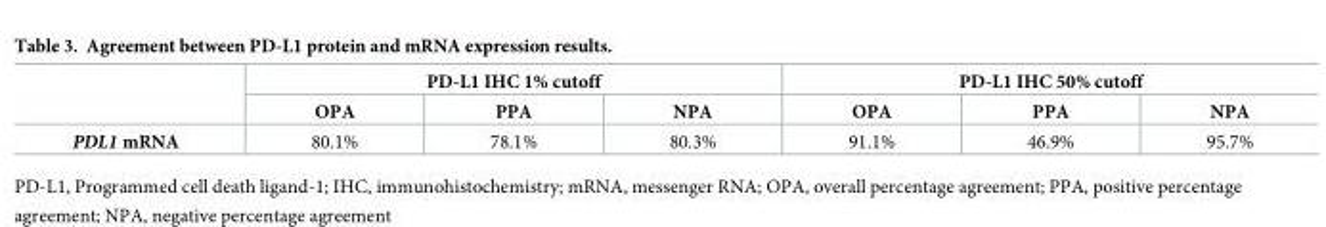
<table><thead><tr><td rowspan="2"></td><td colspan="3">PD-L1 IHC 1% cutoff</td><td colspan="3">PD-L1 IHC 50% cutoff</td></tr><tr><td>OPA</td><td>PPA</td><td>NPA</td><td>OPA</td><td>PPA</td><td>NPA</td></tr></thead><tbody><tr><td>PDL1 mRNA</td><td>80.1%</td><td>78.1%</td><td>80.3%</td><td>91.1%</td><td>46.9%</td><td>95.7%</td></tr></tbody></table>